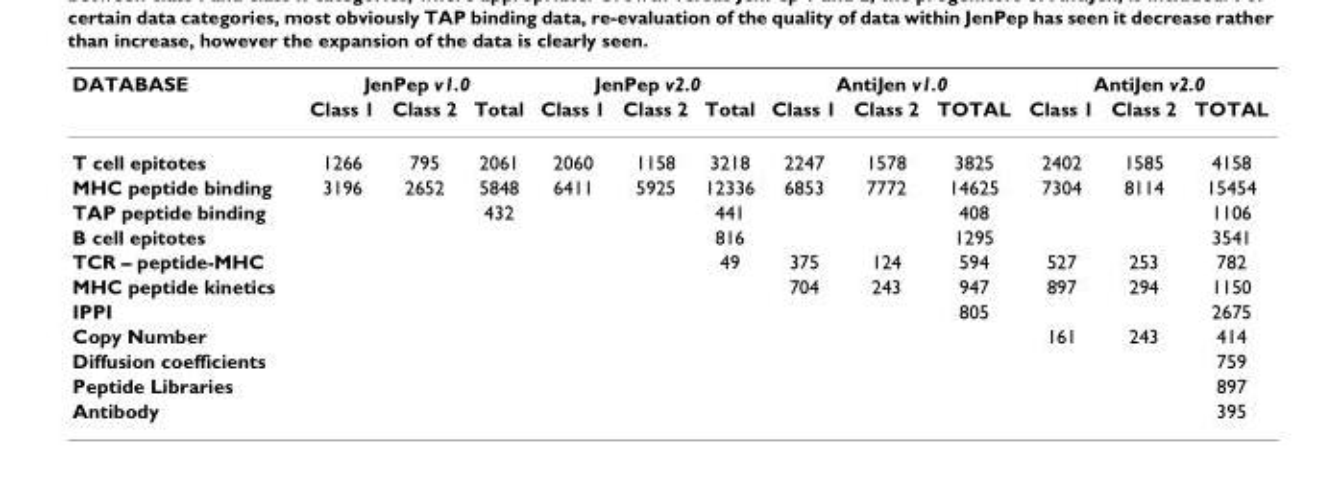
<table><thead><tr><td rowspan="2">DATABASE</td><td colspan="3">JenPep v1.0</td><td colspan="3">JenPep v2.0</td><td colspan="3">AntiJen v1.0</td><td colspan="3">AntiJen v2.0</td></tr><tr><td>Class 1</td><td>Class 2</td><td>Total</td><td>Class 1</td><td>Class 2</td><td>Total</td><td>Class 1</td><td>Class 2</td><td>TOTAL</td><td>Class 1</td><td>Class 2</td><td>TOTAL</td></tr></thead><tbody><tr><td>T cell epitotes</td><td>1266</td><td>795</td><td>2061</td><td>2060</td><td>1158</td><td>3218</td><td>2247</td><td>1578</td><td>3825</td><td>2402</td><td>1585</td><td>4158</td></tr><tr><td>MHC peptide binding</td><td>3196</td><td>2652</td><td>5848</td><td>6411</td><td>5925</td><td>12336</td><td>6853</td><td>7772</td><td>14625</td><td>7304</td><td>8114</td><td>15454</td></tr><tr><td>TAP peptide binding</td><td></td><td></td><td>432</td><td></td><td></td><td>441</td><td></td><td></td><td>408</td><td></td><td></td><td>1106</td></tr><tr><td>B cell epitotes</td><td></td><td></td><td></td><td></td><td></td><td>816</td><td></td><td></td><td>1295</td><td></td><td></td><td>3541</td></tr><tr><td>TCR – peptide-MHC</td><td></td><td></td><td></td><td></td><td></td><td>49</td><td>375</td><td>124</td><td>594</td><td>527</td><td>253</td><td>782</td></tr><tr><td>MHC peptide kinetics</td><td></td><td></td><td></td><td></td><td></td><td></td><td>704</td><td>243</td><td>947</td><td>897</td><td>294</td><td>1150</td></tr><tr><td>IPPI</td><td></td><td></td><td></td><td></td><td></td><td></td><td></td><td></td><td>805</td><td></td><td></td><td>2675</td></tr><tr><td>Copy Number</td><td></td><td></td><td></td><td></td><td></td><td></td><td></td><td></td><td></td><td>161</td><td>243</td><td>414</td></tr><tr><td>Diffusion coefficients</td><td></td><td></td><td></td><td></td><td></td><td></td><td></td><td></td><td></td><td></td><td></td><td>759</td></tr><tr><td>Peptide Libraries</td><td></td><td></td><td></td><td></td><td></td><td></td><td></td><td></td><td></td><td></td><td></td><td>897</td></tr><tr><td>Antibody</td><td></td><td></td><td></td><td></td><td></td><td></td><td></td><td></td><td></td><td></td><td></td><td>395</td></tr></tbody></table>